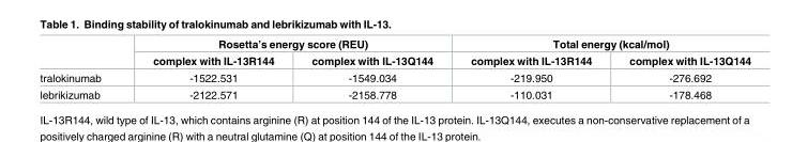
<table><thead><tr><td rowspan="2"></td><td colspan="2">Rosetta’s energy score (REU)</td><td colspan="2">Total energy (kcal/mol)</td></tr><tr><td>complex with IL-13R144</td><td>complex with IL-13Q144</td><td>complex with IL-13R144</td><td>complex with IL-13Q144</td></tr></thead><tbody><tr><td>tralokinumab</td><td>-1522.531</td><td>-1549.034</td><td>-219.950</td><td>-276.692</td></tr><tr><td>lebrikizumab</td><td>-2122.571</td><td>-2158.778</td><td>-110.031</td><td>-178.468</td></tr></tbody></table>